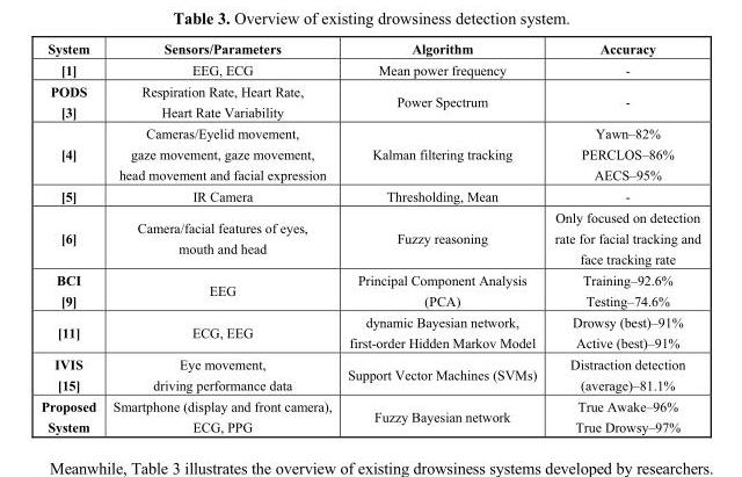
<table><thead><tr><td>System</td><td>Sensors/Parameters</td><td>Algorithm</td><td>Accuracy</td></tr></thead><tbody><tr><td>[1]</td><td>EEG, ECG</td><td>Mean power frequency</td><td>-</td></tr><tr><td>PODS [3]</td><td>Respiration Rate, Heart Rate, Heart Rate Variability</td><td>Power Spectrum</td><td>-</td></tr><tr><td>[4]</td><td>Cameras/Eyelid movement, gaze movement, gaze movement, head movement and facial expression</td><td>Kalman filtering tracking</td><td>Yawn–82% PERCLOS–86% AECS–95%</td></tr><tr><td>[5]</td><td>IR Camera</td><td>Thresholding, Mean</td><td>-</td></tr><tr><td>[6]</td><td>Camera/facial features of eyes, mouth and head</td><td>Fuzzy reasoning</td><td>Only focused on detection rate for facial tracking and face tracking rate</td></tr><tr><td>BCI [9]</td><td>EEG</td><td>Principal Component Analysis (PCA)</td><td>Training–92.6% Testing–74.6%</td></tr><tr><td>[11]</td><td>ECG, EEG</td><td>dynamic Bayesian network, first-order Hidden Markov Model</td><td>Drowsy (best)–91% Active (best)–91%</td></tr><tr><td>IVIS [15]</td><td>Eye movement, driving performance data</td><td>Support Vector Machines (SVMs)</td><td>Distraction detection (average)–81.1%</td></tr><tr><td>Proposed System</td><td>Smartphone (display and front camera), ECG, PPG</td><td>Fuzzy Bayesian network</td><td>True Awake–96% True Drowsy–97%</td></tr></tbody></table>